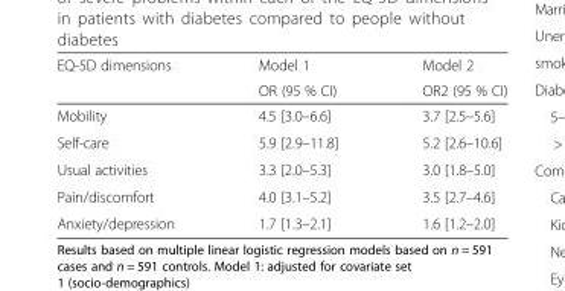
<table><thead><tr><td rowspan="2">EQ-5D dimensions</td><td rowspan="2">Model 1 OR (95 % CI)</td><td rowspan="2">Model 2 OR2 (95 % CI)</td></tr><tr></tr></thead><tbody><tr><td>Mobility</td><td>4.5 [3.0–6.6]</td><td>3.7 [2.5–5.6]</td></tr><tr><td>Self-care</td><td>5.9 [2.9–11.8]</td><td>5.2 [2.6–10.6]</td></tr><tr><td>Usual activities</td><td>3.3 [2.0–5.3]</td><td>3.0 [1.8–5.0]</td></tr><tr><td>Pain/discomfort</td><td>4.0 [3.1–5.2]</td><td>3.5 [2.7–4.6]</td></tr><tr><td>Anxiety/depression</td><td>1.7 [1.3–2.1]</td><td>1.6 [1.2–2.0]</td></tr></tbody></table>